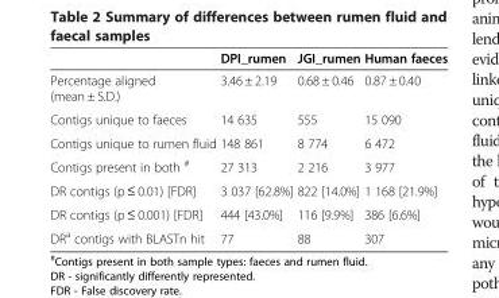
<table><thead><tr><td></td><td>DPI_rumen</td><td>JGI_rumen</td><td>Human faeces</td></tr></thead><tbody><tr><td>Percentage aligned (mean ± S.D.)</td><td>3.46 ± 2.19</td><td>0.68 ± 0.46</td><td>0.87 ± 0.40</td></tr><tr><td>Contigs unique to faeces</td><td>14 635</td><td>555</td><td>15 090</td></tr><tr><td>Contigs unique to rumen fluid</td><td>148 861</td><td>8 774</td><td>6 472</td></tr><tr><td>Contigs present in both <sup>#</sup></td><td>27 313</td><td>2 216</td><td>3 977</td></tr><tr><td>DR contigs (p ≤ 0.01) [FDR]</td><td>3 037 [62.8%]</td><td>822 [14.0%]</td><td>1 168 [21.9%]</td></tr><tr><td>DR contigs (p ≤ 0.001) [FDR]</td><td>444 [43.0%]</td><td>116 [9.9%]</td><td>386 [6.6%]</td></tr><tr><td>DR<sup>a</sup> contigs with BLASTn hit</td><td>77</td><td>88</td><td>307</td></tr></tbody></table>